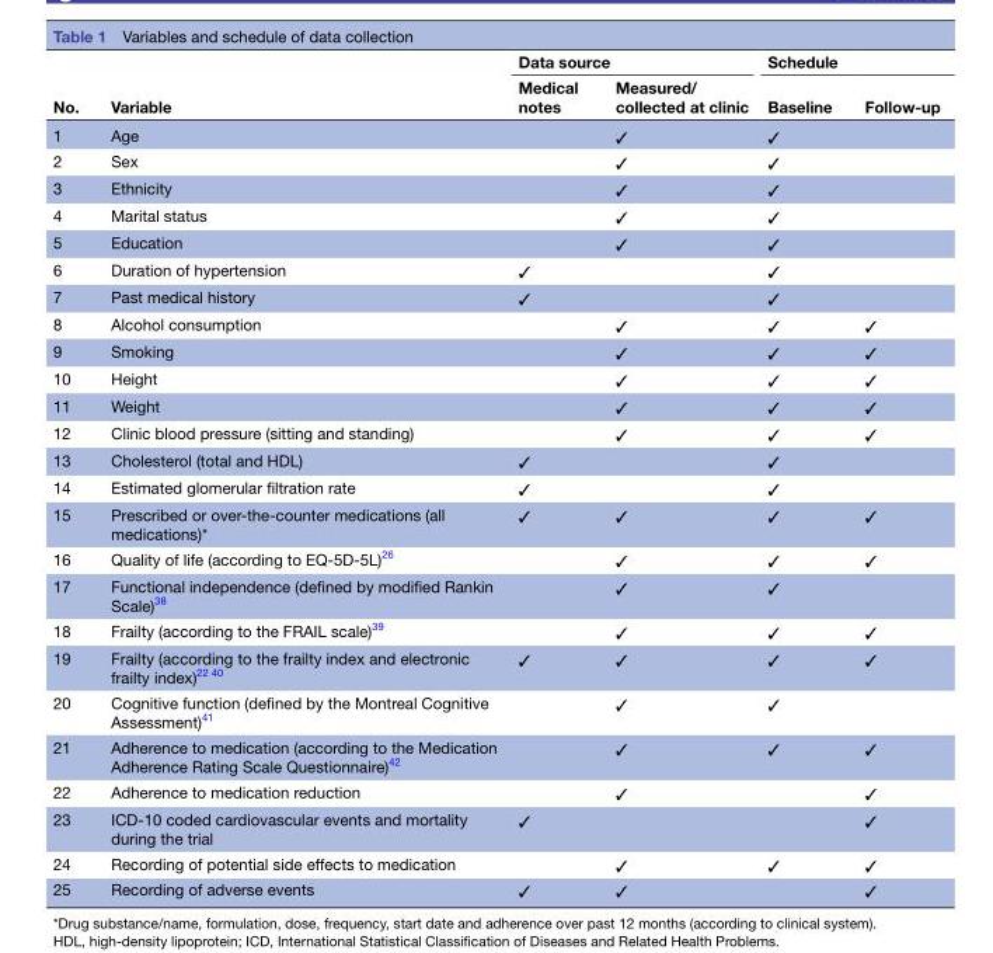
<table><thead><tr><td rowspan="2">No.</td><td rowspan="2">Variable</td><td colspan="2">Data source</td><td colspan="2">Schedule</td></tr><tr><td>Medical notes</td><td>Measured/ collected at clinic</td><td>Baseline</td><td>Follow-up</td></tr></thead><tbody><tr><td>1</td><td>Age</td><td></td><td>✓</td><td>✓</td><td></td></tr><tr><td>2</td><td>Sex</td><td></td><td>✓</td><td>✓</td><td></td></tr><tr><td>3</td><td>Ethnicity</td><td></td><td>✓</td><td>✓</td><td></td></tr><tr><td>4</td><td>Marital status</td><td></td><td>✓</td><td>✓</td><td></td></tr><tr><td>5</td><td>Education</td><td></td><td>✓</td><td>✓</td><td></td></tr><tr><td>6</td><td>Duration of hypertension</td><td>✓</td><td></td><td>✓</td><td></td></tr><tr><td>7</td><td>Past medical history</td><td>✓</td><td></td><td>✓</td><td></td></tr><tr><td>8</td><td>Alcohol consumption</td><td></td><td>✓</td><td>✓</td><td>✓</td></tr><tr><td>9</td><td>Smoking</td><td></td><td>✓</td><td>✓</td><td>✓</td></tr><tr><td>10</td><td>Height</td><td></td><td>✓</td><td>✓</td><td>✓</td></tr><tr><td>11</td><td>Weight</td><td></td><td>✓</td><td>✓</td><td>✓</td></tr><tr><td>12</td><td>Clinic blood pressure (sitting and standing)</td><td></td><td>✓</td><td>✓</td><td>✓</td></tr><tr><td>13</td><td>Cholesterol (total and HDL)</td><td>✓</td><td></td><td>✓</td><td></td></tr><tr><td>14</td><td>Estimated glomerular filtration rate</td><td>✓</td><td></td><td>✓</td><td></td></tr><tr><td>15</td><td>Prescribed or over-the-counter medications (all medications)*</td><td>✓</td><td>✓</td><td>✓</td><td>✓</td></tr><tr><td>16</td><td>Quality of life (according to EQ-5D-5L)<sup>26</sup></td><td></td><td>✓</td><td>✓</td><td>✓</td></tr><tr><td>17</td><td>Functional independence (defined by modified Rankin Scale)<sup>38</sup></td><td></td><td>✓</td><td>✓</td><td></td></tr><tr><td>18</td><td>Frailty (according to the FRAIL scale)<sup>39</sup></td><td></td><td>✓</td><td>✓</td><td>✓</td></tr><tr><td>19</td><td>Frailty (according to the frailty index and electronic frailty index)<sup>22 40</sup></td><td>✓</td><td>✓</td><td>✓</td><td>✓</td></tr><tr><td>20</td><td>Cognitive function (defined by the Montreal Cognitive Assessment)<sup>41</sup></td><td></td><td>✓</td><td>✓</td><td></td></tr><tr><td>21</td><td>Adherence to medication (according to the Medication Adherence Rating Scale Questionnaire)<sup>42</sup></td><td></td><td>✓</td><td>✓</td><td>✓</td></tr><tr><td>22</td><td>Adherence to medication reduction</td><td></td><td>✓</td><td></td><td>✓</td></tr><tr><td>23</td><td>ICD-10 coded cardiovascular events and mortality during the trial</td><td>✓</td><td></td><td></td><td>✓</td></tr><tr><td>24</td><td>Recording of potential side effects to medication</td><td></td><td>✓</td><td>✓</td><td>✓</td></tr><tr><td>25</td><td>Recording of adverse events</td><td>✓</td><td>✓</td><td></td><td>✓</td></tr></tbody></table>